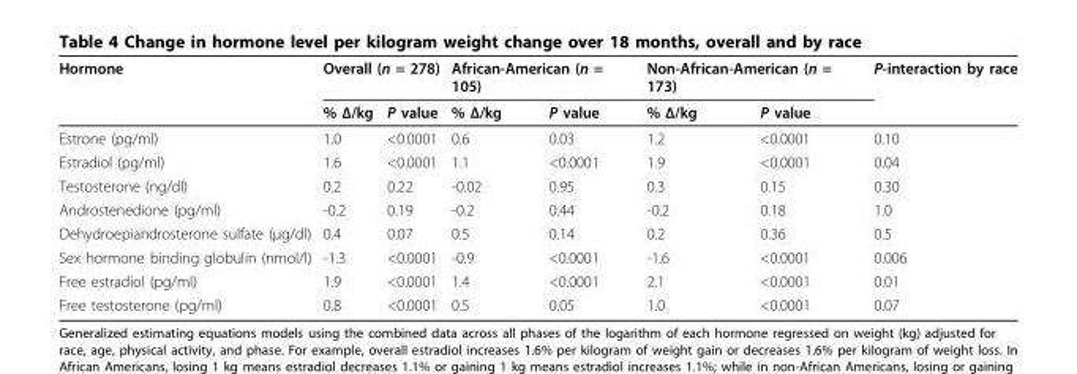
<table><thead><tr><td rowspan="2">Hormone</td><td colspan="2">Overall (n = 278)</td><td colspan="2">African-American (n = 105)</td><td colspan="2">Non-African-American (n = 173)</td><td rowspan="2">P-interaction by race</td></tr><tr><td>% Δ/kg</td><td>P value</td><td>% Δ/kg</td><td>P value</td><td>% Δ/kg</td><td>P value</td></tr></thead><tbody><tr><td>Estrone (pg/ml)</td><td>1.0</td><td>&lt;0.0001</td><td>0.6</td><td>0.03</td><td>1.2</td><td>&lt;0.0001</td><td>0.10</td></tr><tr><td>Estradiol (pg/ml)</td><td>1.6</td><td>&lt;0.0001</td><td>1.1</td><td>&lt;0.0001</td><td>1.9</td><td>&lt;0.0001</td><td>0.04</td></tr><tr><td>Testosterone (ng/dl)</td><td>0.2</td><td>0.22</td><td>-0.02</td><td>0.95</td><td>0.3</td><td>0.15</td><td>0.30</td></tr><tr><td>Androstenedione (pg/ml)</td><td>-0.2</td><td>0.19</td><td>-0.2</td><td>0.44</td><td>-0.2</td><td>0.18</td><td>1.0</td></tr><tr><td>Dehydroepiandrosterone sulfate (μg/dl)</td><td>0.4</td><td>0.07</td><td>0.5</td><td>0.14</td><td>0.2</td><td>0.36</td><td>0.5</td></tr><tr><td>Sex hormone binding globulin (nmol/l)</td><td>-1.3</td><td>&lt;0.0001</td><td>-0.9</td><td>&lt;0.0001</td><td>-1.6</td><td>&lt;0.0001</td><td>0.006</td></tr><tr><td>Free estradiol (pg/ml)</td><td>1.9</td><td>&lt;0.0001</td><td>1.4</td><td>&lt;0.0001</td><td>2.1</td><td>&lt;0.0001</td><td>0.01</td></tr><tr><td>Free testosterone (pg/ml)</td><td>0.8</td><td>&lt;0.0001</td><td>0.5</td><td>0.05</td><td>1.0</td><td>&lt;0.0001</td><td>0.07</td></tr></tbody></table>